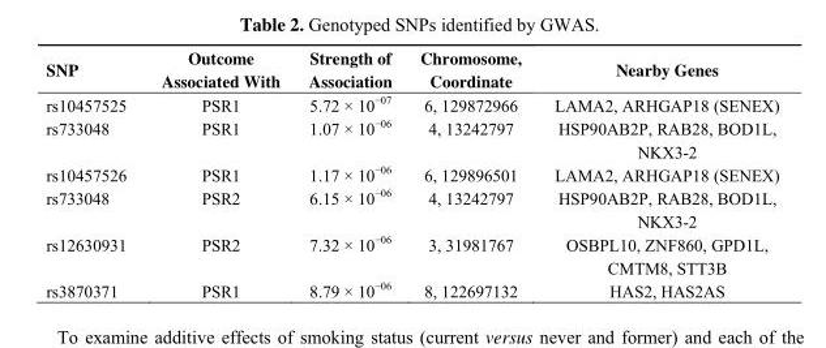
<table><thead><tr><td>SNP</td><td>Outcome Associated With</td><td>Strength of Association</td><td>Chromosome, Coordinate</td><td>Nearby Genes</td></tr></thead><tbody><tr><td>rs10457525</td><td>PSR1</td><td>5.72 × 10<sup>−07</sup></td><td>6, 129872966</td><td>LAMA2, ARHGAP18 (SENEX)</td></tr><tr><td>rs733048</td><td>PSR1</td><td>1.07 × 10<sup>−06</sup></td><td>4, 13242797</td><td>HSP90AB2P, RAB28, BOD1L, NKX3-2</td></tr><tr><td>rs10457526</td><td>PSR1</td><td>1.17 × 10<sup>−06</sup></td><td>6, 129896501</td><td>LAMA2, ARHGAP18 (SENEX)</td></tr><tr><td>rs733048</td><td>PSR2</td><td>6.15 × 10<sup>−06</sup></td><td>4, 13242797</td><td>HSP90AB2P, RAB28, BOD1L, NKX3-2</td></tr><tr><td>rs12630931</td><td>PSR2</td><td>7.32 × 10<sup>−06</sup></td><td>3, 31981767</td><td>OSBPL10, ZNF860, GPD1L, CMTM8, STT3B</td></tr><tr><td>rs3870371</td><td>PSR1</td><td>8.79 × 10<sup>−06</sup></td><td>8, 122697132</td><td>HAS2, HAS2AS</td></tr></tbody></table>